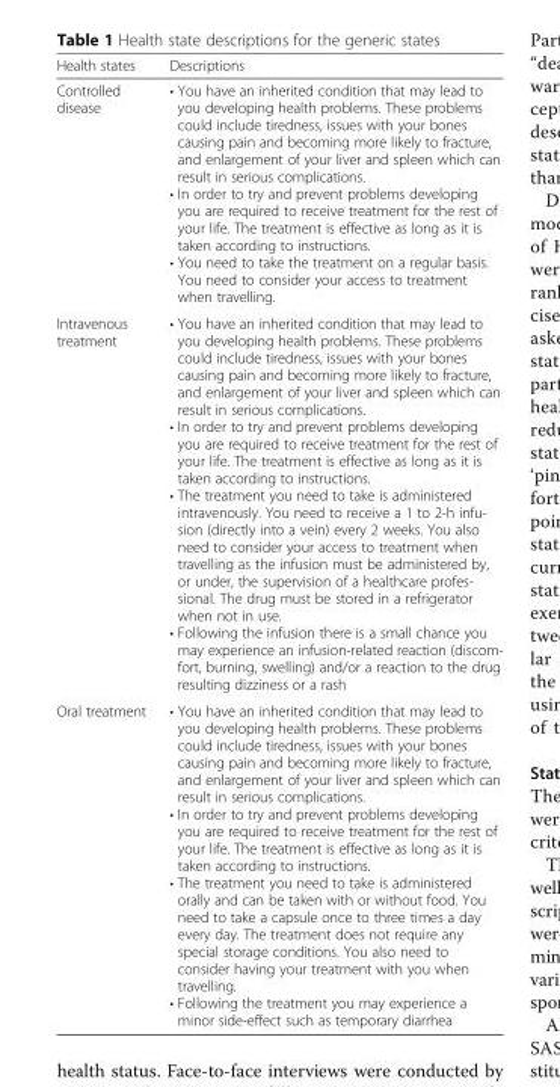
<table><thead><tr><td>Health states</td><td>Descriptions</td></tr></thead><tbody><tr><td>Controlled disease</td><td>• You have an inherited condition that may lead to you developing health problems. These problems could include tiredness, issues with your bones causing pain and becoming more likely to fracture, and enlargement of your liver and spleen which can result in serious complications. • In order to try and prevent problems developing you are required to receive treatment for the rest of your life. The treatment is effective as long as it is taken according to instructions. • You need to take the treatment on a regular basis. You need to consider your access to treatment when travelling.</td></tr><tr><td>Intravenous treatment</td><td>• You have an inherited condition that may lead to you developing health problems. These problems could include tiredness, issues with your bones causing pain and becoming more likely to fracture, and enlargement of your liver and spleen which can result in serious complications. • In order to try and prevent problems developing you are required to receive treatment for the rest of your life. The treatment is effective as long as it is taken according to instructions. • The treatment you need to take is administered intravenously. You need to receive a 1 to 2-h infu- sion (directly into a vein) every 2 weeks. You also need to consider your access to treatment when travelling as the infusion must be administered by, or under, the supervision of a healthcare profes- sional. The drug must be stored in a refrigerator when not in use. • Following the infusion there is a small chance you may experience an infusion-related reaction (discom- fort, burning, swelling) and/or a reaction to the drug resulting dizziness or a rash</td></tr><tr><td>Oral treatment</td><td>• You have an inherited condition that may lead to you developing health problems. These problems could include tiredness, issues with your bones causing pain and becoming more likely to fracture, and enlargement of your liver and spleen which can result in serious complications. • In order to try and prevent problems developing you are required to receive treatment for the rest of your life. The treatment is effective as long as it is taken according to instructions. • The treatment you need to take is administered orally and can be taken with or without food. You need to take a capsule once to three times a day every day. The treatment does not require any special storage conditions. You also need to consider having your treatment with you when travelling. • Following the treatment you may experience a minor side-effect such as temporary diarrhea</td></tr></tbody></table>